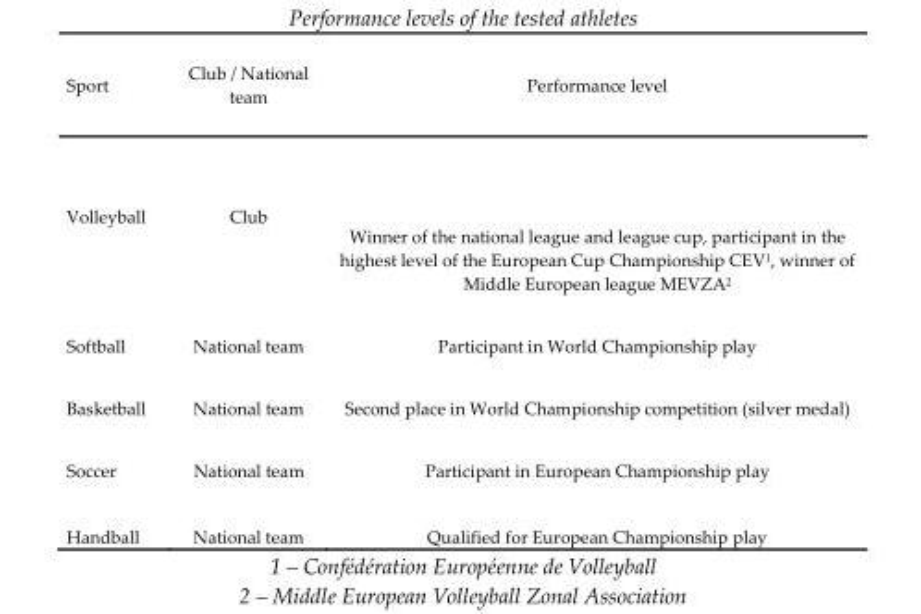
<table><thead><tr><td>Sport</td><td>Club / National team</td><td>Performance level</td></tr></thead><tbody><tr><td>Volleyball</td><td>Club</td><td>Winner of the national league and league cup, participant in the highest level of the European Cup Championship CEV<sup>1</sup>, winner of Middle European league MEVZA<sup>2</sup></td></tr><tr><td>Softball</td><td>National team</td><td>Participant in World Championship play</td></tr><tr><td>Basketball</td><td>National team</td><td>Second place in World Championship competition (silver medal)</td></tr><tr><td>Soccer</td><td>National team</td><td>Participant in European Championship play</td></tr><tr><td>Handball</td><td>National team</td><td>Qualified for European Championship play</td></tr></tbody></table>